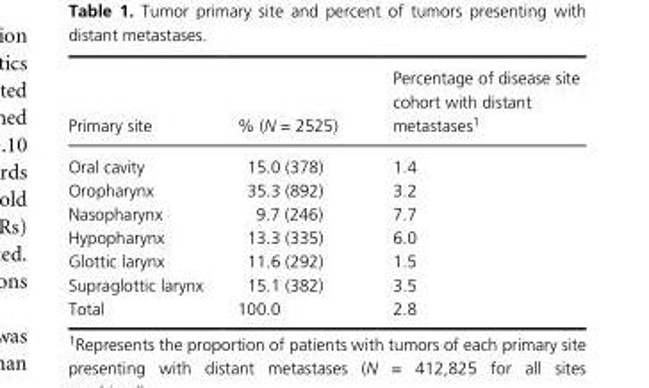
<table><thead><tr><td>Primary site</td><td>% (N = 2525)</td><td>Percentage of disease site cohort with distant metastases1</td></tr></thead><tbody><tr><td>Oral cavity</td><td>15.0 (378)</td><td>1.4</td></tr><tr><td>Oropharynx</td><td>35.3 (892)</td><td>3.2</td></tr><tr><td>Nasopharynx</td><td>9.7 (246)</td><td>7.7</td></tr><tr><td>Hypopharynx</td><td>13.3 (335)</td><td>6.0</td></tr><tr><td>Glottic larynx</td><td>11.6 (292)</td><td>1.5</td></tr><tr><td>Supraglottic larynx</td><td>15.1 (382)</td><td>3.5</td></tr><tr><td>Total</td><td>100.0</td><td>2.8</td></tr></tbody></table>